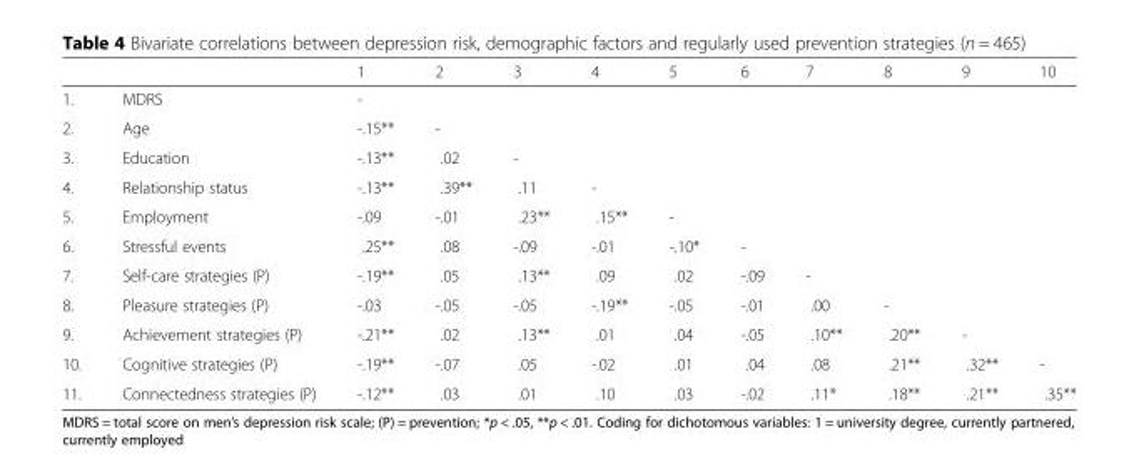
<table><thead><tr><td></td><td></td><td>1</td><td>2</td><td>3</td><td>4</td><td>5</td><td>6</td><td>7</td><td>8</td><td>9</td><td>10</td></tr></thead><tbody><tr><td>1.</td><td>MDRS</td><td>-</td><td></td><td></td><td></td><td></td><td></td><td></td><td></td><td></td><td></td></tr><tr><td>2.</td><td>Age</td><td>-.15**</td><td>-</td><td></td><td></td><td></td><td></td><td></td><td></td><td></td><td></td></tr><tr><td>3.</td><td>Education</td><td>-.13**</td><td>.02</td><td>-</td><td></td><td></td><td></td><td></td><td></td><td></td><td></td></tr><tr><td>4.</td><td>Relationship status</td><td>-.13**</td><td>.39**</td><td>.11</td><td>-</td><td></td><td></td><td></td><td></td><td></td><td></td></tr><tr><td>5.</td><td>Employment</td><td>-.09</td><td>-.01</td><td>.23**</td><td>.15**</td><td>-</td><td></td><td></td><td></td><td></td><td></td></tr><tr><td>6.</td><td>Stressful events</td><td>.25**</td><td>.08</td><td>-.09</td><td>-.01</td><td>-.10*</td><td>-</td><td></td><td></td><td></td><td></td></tr><tr><td>7.</td><td>Self-care strategies (P)</td><td>-.19**</td><td>.05</td><td>.13**</td><td>.09</td><td>.02</td><td>-.09</td><td>-</td><td></td><td></td><td></td></tr><tr><td>8.</td><td>Pleasure strategies (P)</td><td>-.03</td><td>-.05</td><td>-.05</td><td>-.19**</td><td>-.05</td><td>-.01</td><td>.00</td><td>-</td><td></td><td></td></tr><tr><td>9.</td><td>Achievement strategies (P)</td><td>-.21**</td><td>.02</td><td>.13**</td><td>.01</td><td>.04</td><td>-.05</td><td>.10**</td><td>.20**</td><td>-</td><td></td></tr><tr><td>10.</td><td>Cognitive strategies (P)</td><td>-.19**</td><td>-.07</td><td>.05</td><td>-.02</td><td>.01</td><td>.04</td><td>.08</td><td>.21**</td><td>.32**</td><td>-</td></tr><tr><td>11.</td><td>Connectedness strategies (P)</td><td>-.12**</td><td>.03</td><td>.01</td><td>.10</td><td>.03</td><td>-.02</td><td>.11*</td><td>.18**</td><td>.21**</td><td>.35**</td></tr></tbody></table>